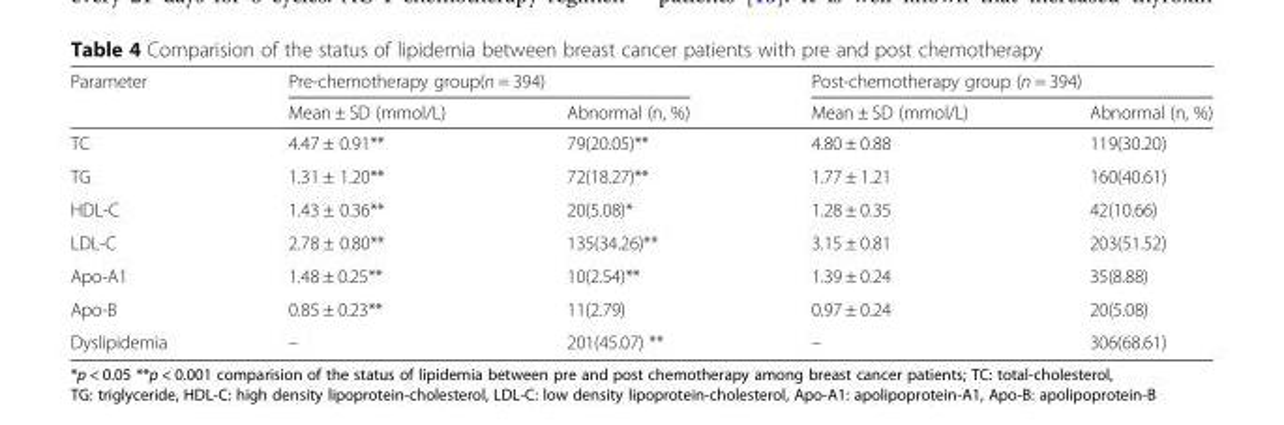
<table><thead><tr><td rowspan="2">Parameter</td><td colspan="2">Pre-chemotherapy group(n = 394)</td><td colspan="2">Post-chemotherapy group (n = 394)</td></tr><tr><td>Mean ± SD (mmol/L)</td><td>Abnormal (n, %)</td><td>Mean ± SD (mmol/L)</td><td>Abnormal (n, %)</td></tr></thead><tbody><tr><td>TC</td><td>4.47 ± 0.91**</td><td>79(20.05)**</td><td>4.80 ± 0.88</td><td>119(30.20)</td></tr><tr><td>TG</td><td>1.31 ± 1.20**</td><td>72(18.27)**</td><td>1.77 ± 1.21</td><td>160(40.61)</td></tr><tr><td>HDL-C</td><td>1.43 ± 0.36**</td><td>20(5.08)*</td><td>1.28 ± 0.35</td><td>42(10.66)</td></tr><tr><td>LDL-C</td><td>2.78 ± 0.80**</td><td>135(34.26)**</td><td>3.15 ± 0.81</td><td>203(51.52)</td></tr><tr><td>Apo-A1</td><td>1.48 ± 0.25**</td><td>10(2.54)**</td><td>1.39 ± 0.24</td><td>35(8.88)</td></tr><tr><td>Apo-B</td><td>0.85 ± 0.23**</td><td>11(2.79)</td><td>0.97 ± 0.24</td><td>20(5.08)</td></tr><tr><td>Dyslipidemia</td><td>–</td><td>201(45.07) **</td><td>–</td><td>306(68.61)</td></tr></tbody></table>